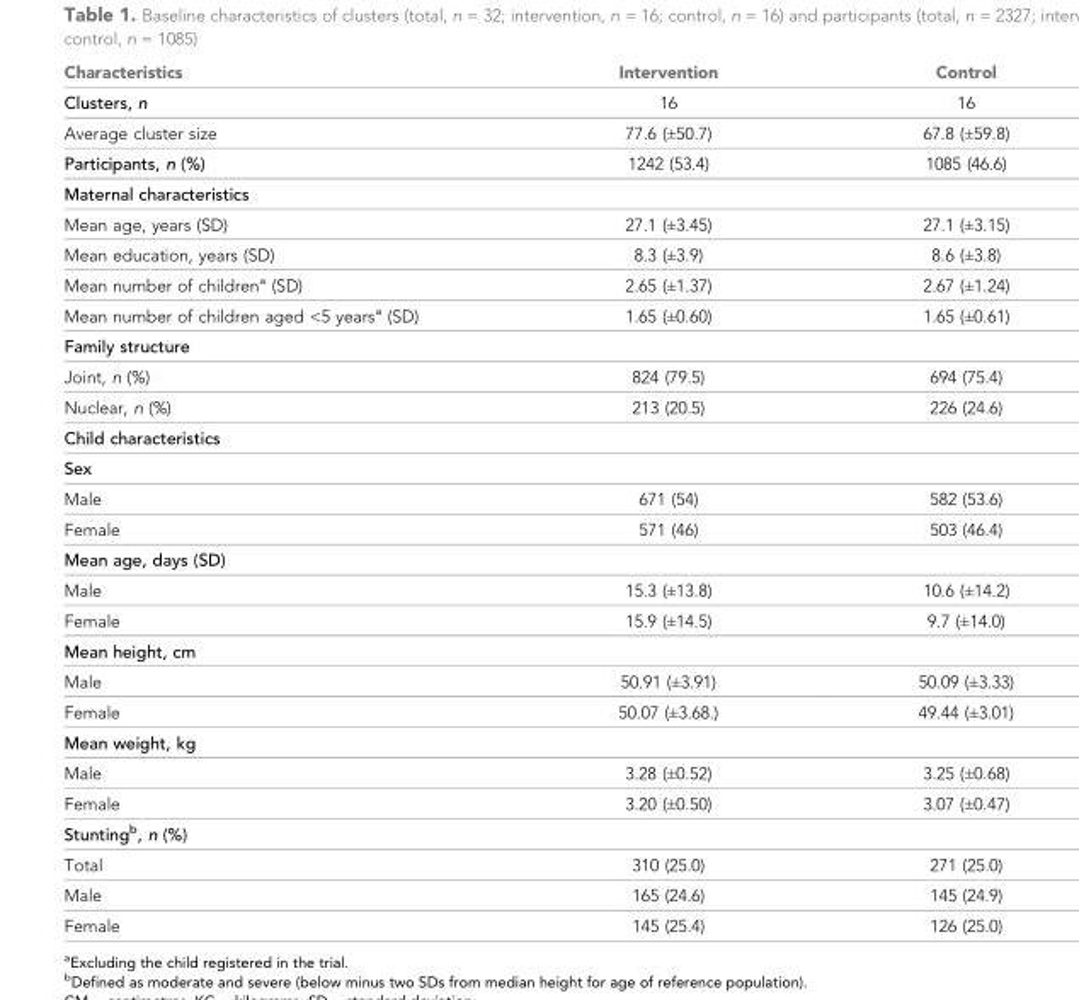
<table><thead><tr><td>Characteristics</td><td>Intervention</td><td>Control</td></tr></thead><tbody><tr><td>Clusters, n</td><td>16</td><td>16</td></tr><tr><td>Average cluster size</td><td>77.6 (±50.7)</td><td>67.8 (±59.8)</td></tr><tr><td>Participants, n (%)</td><td>1242 (53.4)</td><td>1085 (46.6)</td></tr><tr><td colspan="3">Maternal characteristics</td></tr><tr><td>Mean age, years (SD)</td><td>27.1 (±3.45)</td><td>27.1 (±3.15)</td></tr><tr><td>Mean education, years (SD)</td><td>8.3 (±3.9)</td><td>8.6 (±3.8)</td></tr><tr><td>Mean number of children<sup>a</sup> (SD)</td><td>2.65 (±1.37)</td><td>2.67 (±1.24)</td></tr><tr><td>Mean number of children aged &lt;5 years<sup>a</sup> (SD)</td><td>1.65 (±0.60)</td><td>1.65 (±0.61)</td></tr><tr><td colspan="3">Family structure</td></tr><tr><td>Joint, n (%)</td><td>824 (79.5)</td><td>694 (75.4)</td></tr><tr><td>Nuclear, n (%)</td><td>213 (20.5)</td><td>226 (24.6)</td></tr><tr><td colspan="3">Child characteristics</td></tr><tr><td colspan="3">Sex</td></tr><tr><td>Male</td><td>671 (54)</td><td>582 (53.6)</td></tr><tr><td>Female</td><td>571 (46)</td><td>503 (46.4)</td></tr><tr><td colspan="3">Mean age, days (SD)</td></tr><tr><td>Male</td><td>15.3 (±13.8)</td><td>10.6 (±14.2)</td></tr><tr><td>Female</td><td>15.9 (±14.5)</td><td>9.7 (±14.0)</td></tr><tr><td colspan="3">Mean height, cm</td></tr><tr><td>Male</td><td>50.91 (±3.91)</td><td>50.09 (±3.33)</td></tr><tr><td>Female</td><td>50.07 (±3.68.)</td><td>49.44 (±3.01)</td></tr><tr><td colspan="3">Mean weight, kg</td></tr><tr><td>Male</td><td>3.28 (±0.52)</td><td>3.25 (±0.68)</td></tr><tr><td>Female</td><td>3.20 (±0.50)</td><td>3.07 (±0.47)</td></tr><tr><td colspan="3">Stunting<sup>b</sup>, n (%)</td></tr><tr><td>Total</td><td>310 (25.0)</td><td>271 (25.0)</td></tr><tr><td>Male</td><td>165 (24.6)</td><td>145 (24.9)</td></tr><tr><td>Female</td><td>145 (25.4)</td><td>126 (25.0)</td></tr></tbody></table>